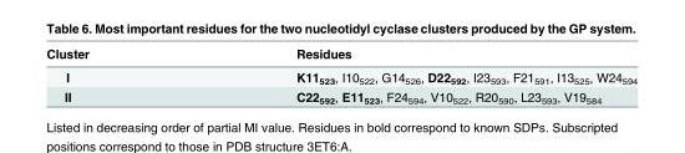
<table><thead><tr><td>Cluster</td><td>Residues</td></tr></thead><tbody><tr><td>I</td><td>K11<sub>523</sub>, I10<sub>522</sub>, G14<sub>526</sub>, D22<sub>592</sub>, I23<sub>593</sub>, F21<sub>591</sub>, I13<sub>525</sub>, W24<sub>594</sub></td></tr><tr><td>II</td><td>C22<sub>592</sub>, E11<sub>523</sub>, F24<sub>594</sub>, V10<sub>522</sub>, R20<sub>590</sub>, L23<sub>593</sub>, V19<sub>584</sub></td></tr></tbody></table>